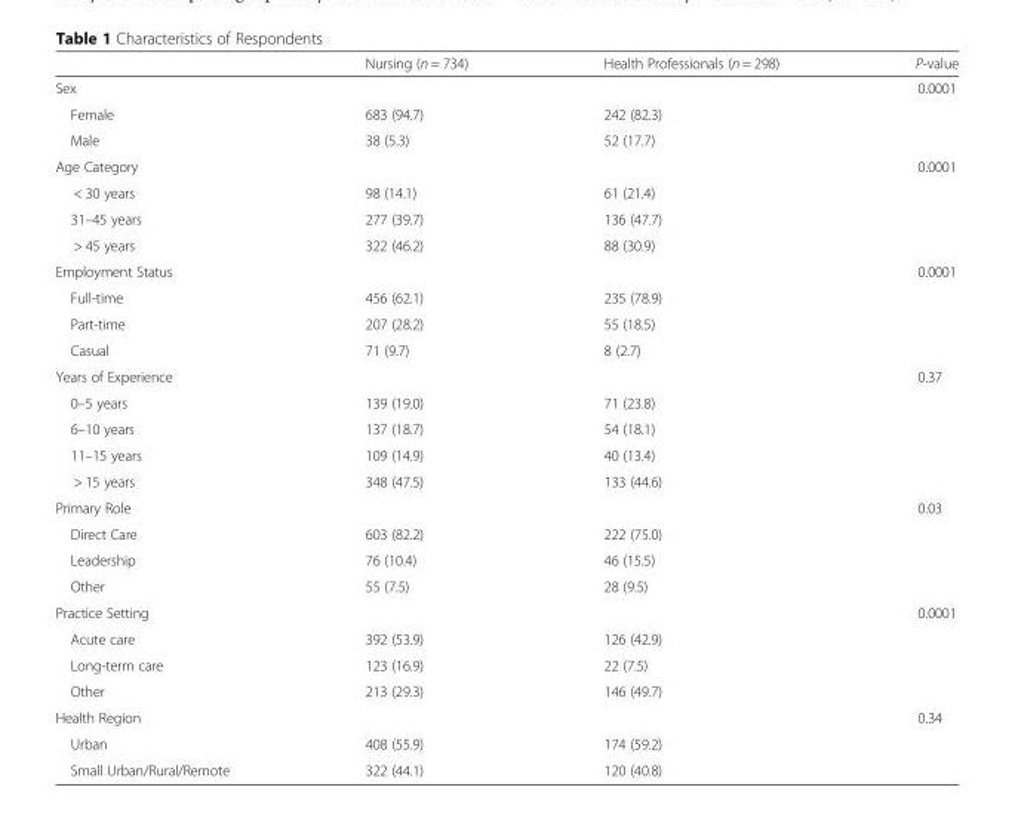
<table><thead><tr><td></td><td>Nursing (n = 734)</td><td>Health Professionals (n = 298)</td><td>P-value</td></tr></thead><tbody><tr><td>Sex</td><td></td><td></td><td>0.0001</td></tr><tr><td>Female</td><td>683 (94.7)</td><td>242 (82.3)</td><td></td></tr><tr><td>Male</td><td>38 (5.3)</td><td>52 (17.7)</td><td></td></tr><tr><td>Age Category</td><td></td><td></td><td>0.0001</td></tr><tr><td>&lt; 30 years</td><td>98 (14.1)</td><td>61 (21.4)</td><td></td></tr><tr><td>31–45 years</td><td>277 (39.7)</td><td>136 (47.7)</td><td></td></tr><tr><td>&gt; 45 years</td><td>322 (46.2)</td><td>88 (30.9)</td><td></td></tr><tr><td>Employment Status</td><td></td><td></td><td>0.0001</td></tr><tr><td>Full-time</td><td>456 (62.1)</td><td>235 (78.9)</td><td></td></tr><tr><td>Part-time</td><td>207 (28.2)</td><td>55 (18.5)</td><td></td></tr><tr><td>Casual</td><td>71 (9.7)</td><td>8 (2.7)</td><td></td></tr><tr><td>Years of Experience</td><td></td><td></td><td>0.37</td></tr><tr><td>0–5 years</td><td>139 (19.0)</td><td>71 (23.8)</td><td></td></tr><tr><td>6–10 years</td><td>137 (18.7)</td><td>54 (18.1)</td><td></td></tr><tr><td>11–15 years</td><td>109 (14.9)</td><td>40 (13.4)</td><td></td></tr><tr><td>&gt; 15 years</td><td>348 (47.5)</td><td>133 (44.6)</td><td></td></tr><tr><td>Primary Role</td><td></td><td></td><td>0.03</td></tr><tr><td>Direct Care</td><td>603 (82.2)</td><td>222 (75.0)</td><td></td></tr><tr><td>Leadership</td><td>76 (10.4)</td><td>46 (15.5)</td><td></td></tr><tr><td>Other</td><td>55 (7.5)</td><td>28 (9.5)</td><td></td></tr><tr><td>Practice Setting</td><td></td><td></td><td>0.0001</td></tr><tr><td>Acute care</td><td>392 (53.9)</td><td>126 (42.9)</td><td></td></tr><tr><td>Long-term care</td><td>123 (16.9)</td><td>22 (7.5)</td><td></td></tr><tr><td>Other</td><td>213 (29.3)</td><td>146 (49.7)</td><td></td></tr><tr><td>Health Region</td><td></td><td></td><td>0.34</td></tr><tr><td>Urban</td><td>408 (55.9)</td><td>174 (59.2)</td><td></td></tr><tr><td>Small Urban/Rural/Remote</td><td>322 (44.1)</td><td>120 (40.8)</td><td></td></tr></tbody></table>